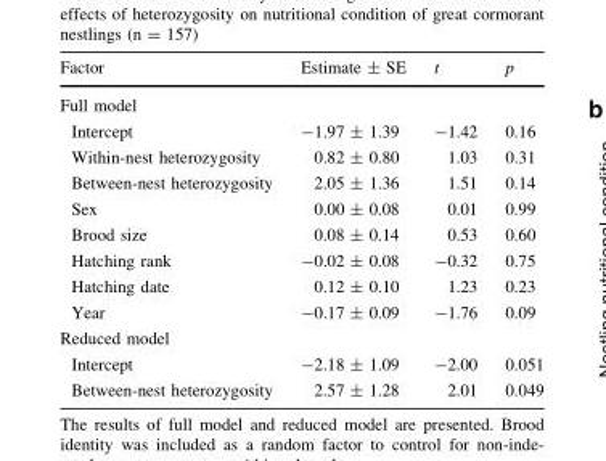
<table><thead><tr><td>Factor</td><td>Estimate ± SE</td><td>t</td><td>p</td></tr></thead><tbody><tr><td colspan="4">Full model</td></tr><tr><td>Intercept</td><td>-1.97 ± 1.39</td><td>-1.42</td><td>0.16</td></tr><tr><td>Within-nest heterozygosity</td><td>0.82 ± 0.80</td><td>1.03</td><td>0.31</td></tr><tr><td>Between-nest heterozygosity</td><td>2.05 ± 1.36</td><td>1.51</td><td>0.14</td></tr><tr><td>Sex</td><td>0.00 ± 0.08</td><td>0.01</td><td>0.99</td></tr><tr><td>Brood size</td><td>0.08 ± 0.14</td><td>0.53</td><td>0.60</td></tr><tr><td>Hatching rank</td><td>-0.02 ± 0.08</td><td>-0.32</td><td>0.75</td></tr><tr><td>Hatching date</td><td>0.12 ± 0.10</td><td>1.23</td><td>0.23</td></tr><tr><td>Year</td><td>-0.17 ± 0.09</td><td>-1.76</td><td>0.09</td></tr><tr><td colspan="4">Reduced model</td></tr><tr><td>Intercept</td><td>-2.18 ± 1.09</td><td>-2.00</td><td>0.051</td></tr><tr><td>Between-nest heterozygosity</td><td>2.57 ± 1.28</td><td>2.01</td><td>0.049</td></tr></tbody></table>